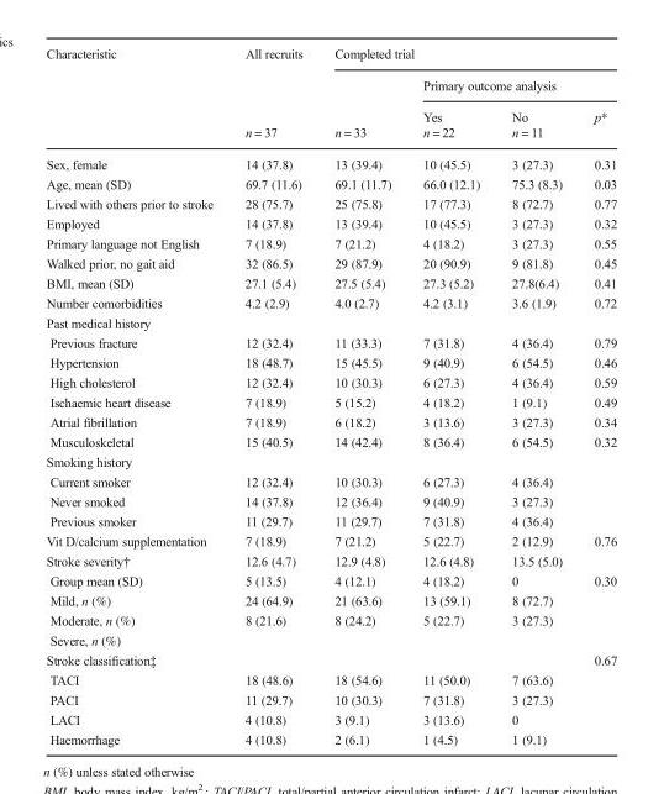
<table><thead><tr><td rowspan="4">Characteristic</td><td rowspan="4">All recruits n = 37</td><td colspan="4">Completed trial</td></tr><tr><td rowspan="3">n = 33</td><td colspan="3">Primary outcome analysis</td></tr><tr><td rowspan="2">Yes n = 22</td><td rowspan="2">No n = 11</td><td rowspan="2">p*</td></tr><tr></tr></thead><tbody><tr><td>Sex, female</td><td>14 (37.8)</td><td>13 (39.4)</td><td>10 (45.5)</td><td>3 (27.3)</td><td>0.31</td></tr><tr><td>Age, mean (SD)</td><td>69.7 (11.6)</td><td>69.1 (11.7)</td><td>66.0 (12.1)</td><td>75.3 (8.3)</td><td>0.03</td></tr><tr><td>Lived with others prior to stroke</td><td>28 (75.7)</td><td>25 (75.8)</td><td>17 (77.3)</td><td>8 (72.7)</td><td>0.77</td></tr><tr><td>Employed</td><td>14 (37.8)</td><td>13 (39.4)</td><td>10 (45.5)</td><td>3 (27.3)</td><td>0.32</td></tr><tr><td>Primary language not English</td><td>7 (18.9)</td><td>7 (21.2)</td><td>4 (18.2)</td><td>3 (27.3)</td><td>0.55</td></tr><tr><td>Walked prior, no gait aid</td><td>32 (86.5)</td><td>29 (87.9)</td><td>20 (90.9)</td><td>9 (81.8)</td><td>0.45</td></tr><tr><td>BMI, mean (SD)</td><td>27.1 (5.4)</td><td>27.5 (5.4)</td><td>27.3 (5.2)</td><td>27.8(6.4)</td><td>0.41</td></tr><tr><td>Number comorbidities</td><td>4.2 (2.9)</td><td>4.0 (2.7)</td><td>4.2 (3.1)</td><td>3.6 (1.9)</td><td>0.72</td></tr><tr><td colspan="6">Past medical history</td></tr><tr><td>Previous fracture</td><td>12 (32.4)</td><td>11 (33.3)</td><td>7 (31.8)</td><td>4 (36.4)</td><td>0.79</td></tr><tr><td>Hypertension</td><td>18 (48.7)</td><td>15 (45.5)</td><td>9 (40.9)</td><td>6 (54.5)</td><td>0.46</td></tr><tr><td>High cholesterol</td><td>12 (32.4)</td><td>10 (30.3)</td><td>6 (27.3)</td><td>4 (36.4)</td><td>0.59</td></tr><tr><td>Ischaemic heart disease</td><td>7 (18.9)</td><td>5 (15.2)</td><td>4 (18.2)</td><td>1 (9.1)</td><td>0.49</td></tr><tr><td>Atrial fibrillation</td><td>7 (18.9)</td><td>6 (18.2)</td><td>3 (13.6)</td><td>3 (27.3)</td><td>0.34</td></tr><tr><td>Musculoskeletal</td><td>15 (40.5)</td><td>14 (42.4)</td><td>8 (36.4)</td><td>6 (54.5)</td><td>0.32</td></tr><tr><td colspan="6">Smoking history</td></tr><tr><td>Current smoker</td><td>12 (32.4)</td><td>10 (30.3)</td><td>6 (27.3)</td><td>4 (36.4)</td><td></td></tr><tr><td>Never smoked</td><td>14 (37.8)</td><td>12 (36.4)</td><td>9 (40.9)</td><td>3 (27.3)</td><td></td></tr><tr><td>Previous smoker</td><td>11 (29.7)</td><td>11 (29.7)</td><td>7 (31.8)</td><td>4 (36.4)</td><td></td></tr><tr><td>Vit D/calcium supplementation</td><td>7 (18.9)</td><td>7 (21.2)</td><td>5 (22.7)</td><td>2 (12.9)</td><td>0.76</td></tr><tr><td>Stroke severity†</td><td>12.6 (4.7)</td><td>12.9 (4.8)</td><td>12.6 (4.8)</td><td>13.5 (5.0)</td><td></td></tr><tr><td>Group mean (SD)</td><td>5 (13.5)</td><td>4 (12.1)</td><td>4 (18.2)</td><td>0</td><td>0.30</td></tr><tr><td>Mild, n (%)</td><td>24 (64.9)</td><td>21 (63.6)</td><td>13 (59.1)</td><td>8 (72.7)</td><td></td></tr><tr><td>Moderate, n (%)</td><td>8 (21.6)</td><td>8 (24.2)</td><td>5 (22.7)</td><td>3 (27.3)</td><td></td></tr><tr><td colspan="6">Severe, n (%)</td></tr><tr><td>Stroke classification‡</td><td></td><td></td><td></td><td></td><td>0.67</td></tr><tr><td>TACI</td><td>18 (48.6)</td><td>18 (54.6)</td><td>11 (50.0)</td><td>7 (63.6)</td><td></td></tr><tr><td>PACI</td><td>11 (29.7)</td><td>10 (30.3)</td><td>7 (31.8)</td><td>3 (27.3)</td><td></td></tr><tr><td>LACI</td><td>4 (10.8)</td><td>3 (9.1)</td><td>3 (13.6)</td><td>0</td><td></td></tr><tr><td>Haemorrhage</td><td>4 (10.8)</td><td>2 (6.1)</td><td>1 (4.5)</td><td>1 (9.1)</td><td></td></tr></tbody></table>